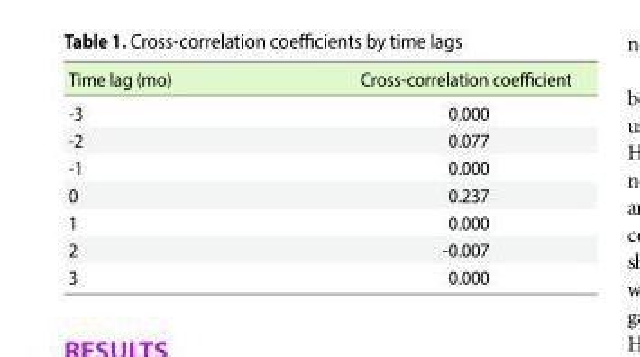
<table><thead><tr><td>Time lag (mo)</td><td>Cross-correlation coefficient</td></tr></thead><tbody><tr><td>-3</td><td>0.000</td></tr><tr><td>-2</td><td>0.077</td></tr><tr><td>-1</td><td>0.000</td></tr><tr><td>0</td><td>0.237</td></tr><tr><td>1</td><td>0.000</td></tr><tr><td>2</td><td>-0.007</td></tr><tr><td>3</td><td>0.000</td></tr></tbody></table>